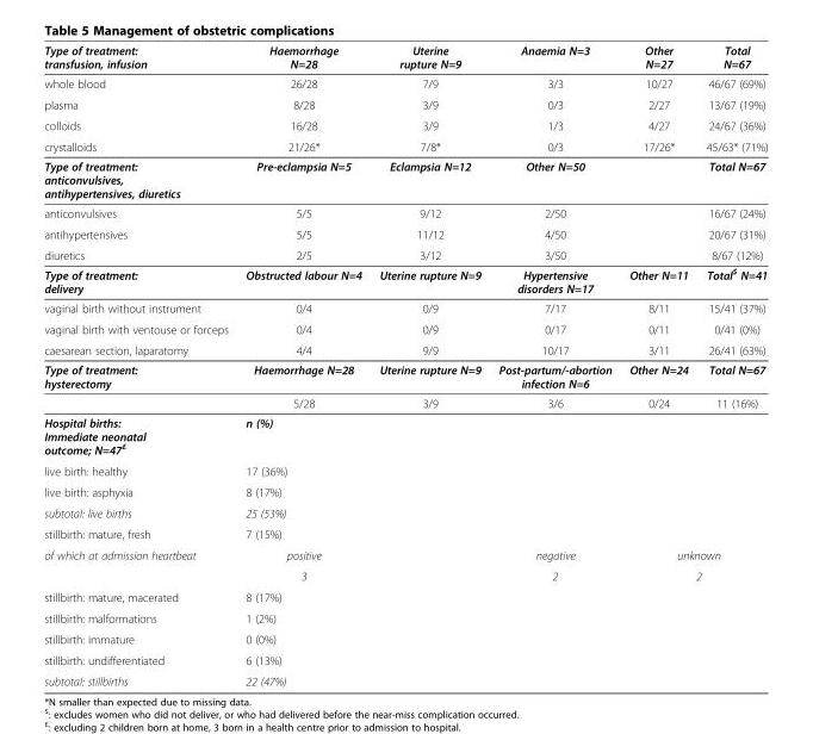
<table><thead><tr><td>Type of treatment: transfusion, infusion</td><td>Haemorrhage N=28</td><td>Uterine rupture N=9</td><td>Anaemia N=3</td><td>Other N=27</td><td>Total N=67</td></tr></thead><tbody><tr><td>whole blood</td><td>26/28</td><td>7/9</td><td>3/3</td><td>10/27</td><td>46/67 (69%)</td></tr><tr><td>plasma</td><td>8/28</td><td>3/9</td><td>0/3</td><td>2/27</td><td>13/67 (19%)</td></tr><tr><td>colloids</td><td>16/28</td><td>3/9</td><td>1/3</td><td>4/27</td><td>24/67 (36%)</td></tr><tr><td>crystalloids</td><td>21/26*</td><td>7/8*</td><td>0/3</td><td>17/26*</td><td>45/63* (71%)</td></tr><tr><td>Type of treatment: anticonvulsives, antihypertensives, diuretics</td><td>Pre-eclampsia N=5</td><td>Eclampsia N=12</td><td>Other N=50</td><td></td><td>Total N=67</td></tr><tr><td>anticonvulsives</td><td>5/5</td><td>9/12</td><td>2/50</td><td></td><td>16/67 (24%)</td></tr><tr><td>antihypertensives</td><td>5/5</td><td>11/12</td><td>4/50</td><td></td><td>20/67 (31%)</td></tr><tr><td>diuretics</td><td>2/5</td><td>3/12</td><td>3/50</td><td></td><td>8/67 (12%)</td></tr><tr><td>Type of treatment: delivery</td><td>Obstructed labour N=4</td><td>Uterine rupture N=9</td><td>Hypertensive disorders N=17</td><td>Other N=11</td><td>Total<sup>$</sup> N=41</td></tr><tr><td>vaginal birth without instrument</td><td>0/4</td><td>0/9</td><td>7/17</td><td>8/11</td><td>15/41 (37%)</td></tr><tr><td>vaginal birth with ventouse or forceps</td><td>0/4</td><td>0/9</td><td>0/17</td><td>0/11</td><td>0/41 (0%)</td></tr><tr><td>caesarean section, laparatomy</td><td>4/4</td><td>9/9</td><td>10/17</td><td>3/11</td><td>26/41 (63%)</td></tr><tr><td rowspan="2">Type of treatment: hysterectomy</td><td>Haemorrhage N=28</td><td>Uterine rupture N=9</td><td>Post-partum/-abortion infection N=6</td><td>Other N=24</td><td>Total N=67</td></tr><tr><td>5/28</td><td>3/9</td><td>3/6</td><td>0/24</td><td>11 (16%)</td></tr><tr><td>Hospital births: Immediate neonatal outcome; N=47<sup>£</sup></td><td colspan="5">n (%)</td></tr><tr><td>live birth: healthy</td><td colspan="5">17 (36%)</td></tr><tr><td>live birth: asphyxia</td><td colspan="5">8 (17%)</td></tr><tr><td>subtotal: live births</td><td colspan="5">25 (53%)</td></tr><tr><td>stillbirth: mature, fresh</td><td colspan="5">7 (15%)</td></tr><tr><td rowspan="2">of which at admission heartbeat</td><td>positive</td><td></td><td>negative</td><td colspan="2">unknown</td></tr><tr><td>3</td><td></td><td>2</td><td colspan="2">2</td></tr><tr><td>stillbirth: mature, macerated</td><td colspan="5">8 (17%)</td></tr><tr><td>stillbirth: malformations</td><td colspan="5">1 (2%)</td></tr><tr><td>stillbirth: immature</td><td colspan="5">0 (0%)</td></tr><tr><td>stillbirth: undifferentiated</td><td colspan="5">6 (13%)</td></tr><tr><td>subtotal: stillbirths</td><td colspan="5">22 (47%)</td></tr></tbody></table>